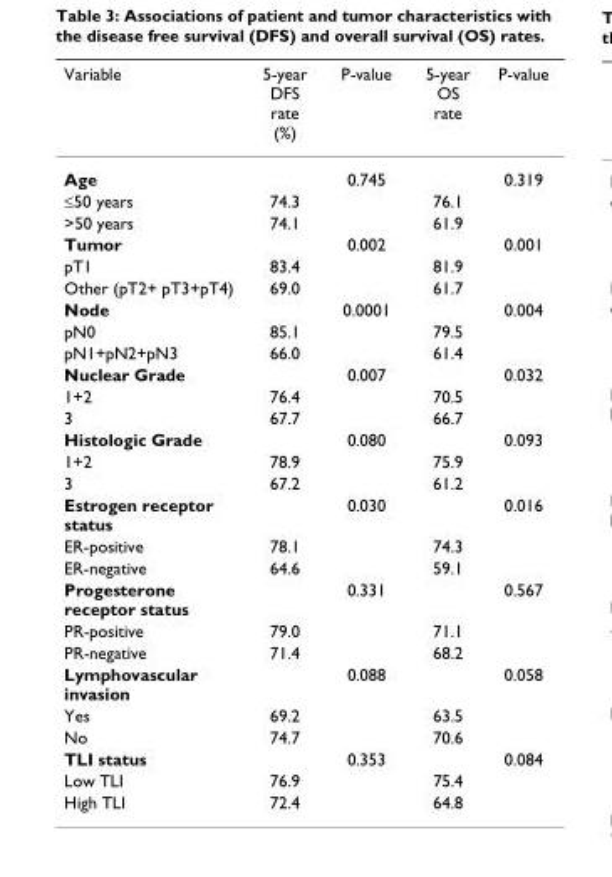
<table><thead><tr><td>Variable</td><td>5-year DFS rate (%)</td><td>P-value</td><td>5-year OS rate</td><td>P-value</td></tr></thead><tbody><tr><td>Age</td><td></td><td>0.745</td><td></td><td>0.319</td></tr><tr><td>≤50 years</td><td>74.3</td><td></td><td>76.1</td><td></td></tr><tr><td>&gt;50 years</td><td>74.1</td><td></td><td>61.9</td><td></td></tr><tr><td>Tumor</td><td></td><td>0.002</td><td></td><td>0.001</td></tr><tr><td>pT1</td><td>83.4</td><td></td><td>81.9</td><td></td></tr><tr><td>Other (pT2+ pT3+pT4)</td><td>69.0</td><td></td><td>61.7</td><td></td></tr><tr><td>Node</td><td></td><td>0.0001</td><td></td><td>0.004</td></tr><tr><td>pN0</td><td>85.1</td><td></td><td>79.5</td><td></td></tr><tr><td>pN1+pN2+pN3</td><td>66.0</td><td></td><td>61.4</td><td></td></tr><tr><td>Nuclear Grade</td><td></td><td>0.007</td><td></td><td>0.032</td></tr><tr><td>1+2</td><td>76.4</td><td></td><td>70.5</td><td></td></tr><tr><td>3</td><td>67.7</td><td></td><td>66.7</td><td></td></tr><tr><td>Histologic Grade</td><td></td><td>0.080</td><td></td><td>0.093</td></tr><tr><td>1+2</td><td>78.9</td><td></td><td>75.9</td><td></td></tr><tr><td>3</td><td>67.2</td><td></td><td>61.2</td><td></td></tr><tr><td>Estrogen receptor status</td><td></td><td>0.030</td><td></td><td>0.016</td></tr><tr><td>ER-positive</td><td>78.1</td><td></td><td>74.3</td><td></td></tr><tr><td>ER-negative</td><td>64.6</td><td></td><td>59.1</td><td></td></tr><tr><td>Progesterone receptor status</td><td></td><td>0.331</td><td></td><td>0.567</td></tr><tr><td>PR-positive</td><td>79.0</td><td></td><td>71.1</td><td></td></tr><tr><td>PR-negative</td><td>71.4</td><td></td><td>68.2</td><td></td></tr><tr><td>Lymphovascular invasion</td><td></td><td>0.088</td><td></td><td>0.058</td></tr><tr><td>Yes</td><td>69.2</td><td></td><td>63.5</td><td></td></tr><tr><td>No</td><td>74.7</td><td></td><td>70.6</td><td></td></tr><tr><td>TLI status</td><td></td><td>0.353</td><td></td><td>0.084</td></tr><tr><td>Low TLI</td><td>76.9</td><td></td><td>75.4</td><td></td></tr><tr><td>High TLI</td><td>72.4</td><td></td><td>64.8</td><td></td></tr></tbody></table>